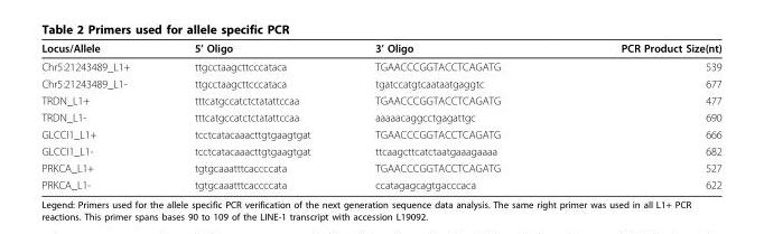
<table><thead><tr><td>Locus/Allele</td><td>5’ Oligo</td><td>3’ Oligo</td><td>PCR Product Size(nt)</td></tr></thead><tbody><tr><td>Chr5:21243489_L1+</td><td>ttgcctaagcttcccataca</td><td>TGAACCCGGTACCTCAGATG</td><td>539</td></tr><tr><td>Chr5:21243489_L1-</td><td>ttgcctaagcttcccataca</td><td>tgatccatgtcaataatgaggtc</td><td>677</td></tr><tr><td>TRDN_L1+</td><td>tttcatgccatctctatattccaa</td><td>TGAACCCGGTACCTCAGATG</td><td>477</td></tr><tr><td>TRDN_L1-</td><td>tttcatgccatctctatattccaa</td><td>aaaaacaggcctgagattgc</td><td>690</td></tr><tr><td>GLCCI1_L1+</td><td>tcctcatacaaacttgtgaagtgat</td><td>TGAACCCGGTACCTCAGATG</td><td>666</td></tr><tr><td>GLCCI1_L1-</td><td>tcctcatacaaacttgtgaagtgat</td><td>ttcaagcttcatctaatgaaagaaaa</td><td>682</td></tr><tr><td>PRKCA_L1+</td><td>tgtgcaaatttcaccccata</td><td>TGAACCCGGTACCTCAGATG</td><td>527</td></tr><tr><td>PRKCA_L1-</td><td>tgtgcaaatttcaccccata</td><td>ccatagagcagtgacccaca</td><td>622</td></tr></tbody></table>